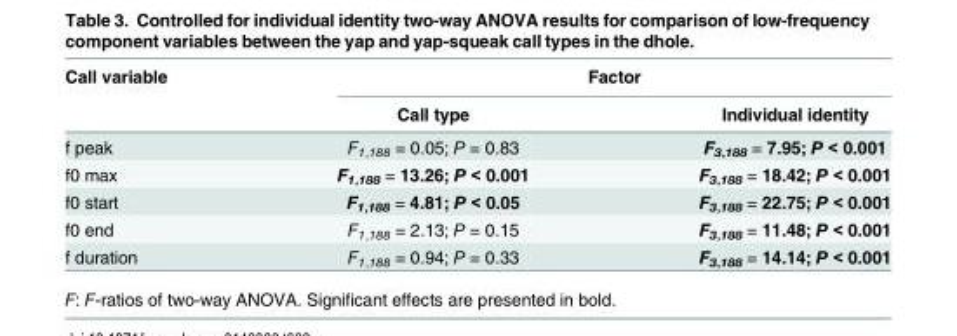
<table><thead><tr><td rowspan="2">Call variable</td><td colspan="2">Factor</td></tr><tr><td>Call type</td><td>Individual identity</td></tr></thead><tbody><tr><td>f peak</td><td>F<sub>1,188</sub> = 0.05; P = 0.83</td><td>F<sub>3,188</sub> = 7.95; P &lt; 0.001</td></tr><tr><td>f0 max</td><td>F<sub>1,188</sub> = 13.26; P &lt; 0.001</td><td>F<sub>3,188</sub> = 18.42; P &lt; 0.001</td></tr><tr><td>f0 start</td><td>F<sub>1,188</sub> = 4.81; P &lt; 0.05</td><td>F<sub>3,188</sub> = 22.75; P &lt; 0.001</td></tr><tr><td>f0 end</td><td>F<sub>1,188</sub> = 2.13; P = 0.15</td><td>F<sub>3,188</sub> = 11.48; P &lt; 0.001</td></tr><tr><td>f duration</td><td>F<sub>1,188</sub> = 0.94; P = 0.33</td><td>F<sub>3,188</sub> = 14.14; P &lt; 0.001</td></tr></tbody></table>